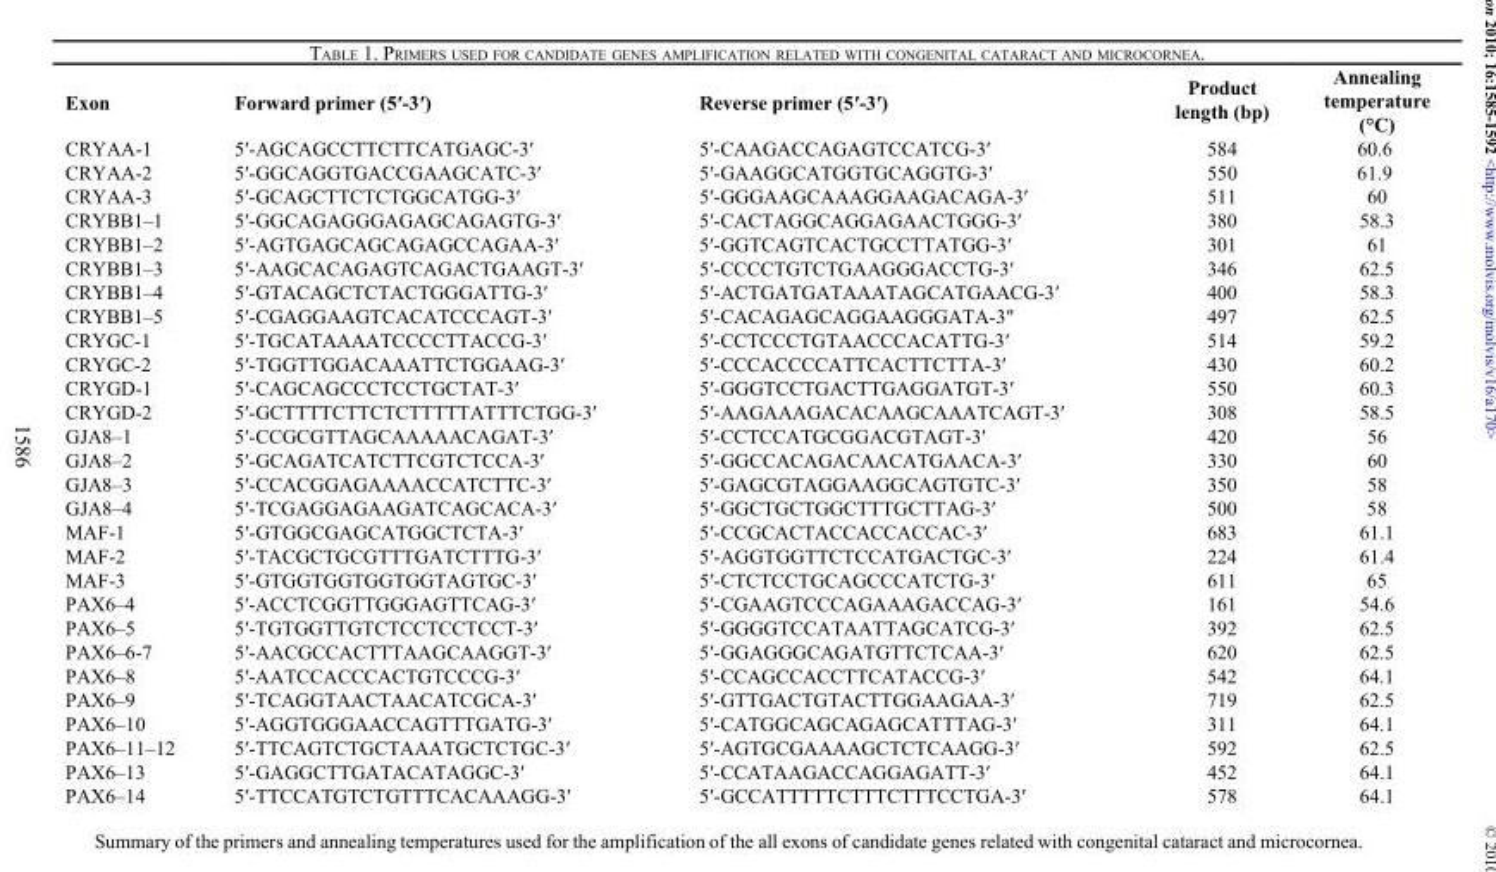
<table><thead><tr><td>Exon</td><td>Forward primer (5′-3′)</td><td>Reverse primer (5′-3′)</td><td>Product length (bp)</td><td>Annealing temperature (°C)</td></tr></thead><tbody><tr><td>CRYAA-1</td><td>5′-AGCAGCCTTCTTCATGAGC-3′</td><td>5′-CAAGACCAGAGTCCATCG-3′</td><td>584</td><td>60.6</td></tr><tr><td>CRYAA-2</td><td>5′-GGCAGGTGACCGAAGCATC-3′</td><td>5′-GAAGGCATGGTGCAGGTG-3′</td><td>550</td><td>61.9</td></tr><tr><td>CRYAA-3</td><td>5′-GCAGCTTCTCTGGCATGG-3′</td><td>5′-GGGAAGCAAAGGAAGACAGA-3′</td><td>511</td><td>60</td></tr><tr><td>CRYBB1–1</td><td>5′-GGCAGAGGGAGAGCAGAGTG-3′</td><td>5′-CACTAGGCAGGAGAACTGGG-3′</td><td>380</td><td>58.3</td></tr><tr><td>CRYBB1–2</td><td>5′-AGTGAGCAGCAGAGCCAGAA-3′</td><td>5′-GGTCAGTCACTGCCTTATGG-3′</td><td>301</td><td>61</td></tr><tr><td>CRYBB1–3</td><td>5′-AAGCACAGAGTCAGACTGAAGT-3′</td><td>5′-CCCCTGTCTGAAGGGACCTG-3′</td><td>346</td><td>62.5</td></tr><tr><td>CRYBB1–4</td><td>5′-GTACAGCTCTACTGGGATTG-3′</td><td>5′-ACTGATGATAAATAGCATGAACG-3′</td><td>400</td><td>58.3</td></tr><tr><td>CRYBB1–5</td><td>5′-CGAGGAAGTCACATCCCAGT-3′</td><td>5′-CACAGAGCAGGAAGGGATA-3′&#x27;</td><td>497</td><td>62.5</td></tr><tr><td>CRYGC-1</td><td>5′-TGCATAAAATCCCCTTACCG-3′</td><td>5′-CCTCCCTGTAACCCACATTG-3′</td><td>514</td><td>59.2</td></tr><tr><td>CRYGC-2</td><td>5′-TGGTTGGACAAATTCTGGAAG-3′</td><td>5′-CCCACCCCATTCACTTCTTA-3′</td><td>430</td><td>60.2</td></tr><tr><td>CRYGD-1</td><td>5′-CAGCAGCCCTCCTGCTAT-3′</td><td>5′-GGGTCCTGACTTGAGGATGT-3′</td><td>550</td><td>60.3</td></tr><tr><td>CRYGD-2</td><td>5′-GCTTTTCTTCTCTTTTTATTTCTGG-3′</td><td>5′-AAGAAAGACACAAGCAAATCAGT-3′</td><td>308</td><td>58.5</td></tr><tr><td>GJA8–1</td><td>5′-CCGCGTTAGCAAAAACAGAT-3′</td><td>5′-CCTCCATGCGGACGTAGT-3′</td><td>420</td><td>56</td></tr><tr><td>GJA8–2</td><td>5′-GCAGATCATCTTCGTCTCCA-3′</td><td>5′-GGCCACAGACAACATGAACA-3′</td><td>330</td><td>60</td></tr><tr><td>GJA8–3</td><td>5′-CCACGGAGAAAACCATCTTC-3′</td><td>5′-GAGCGTAGGAAGGCAGTGTC-3′</td><td>350</td><td>58</td></tr><tr><td>GJA8–4</td><td>5′-TCGAGGAGAAGATCAGCACA-3′</td><td>5′-GGCTGCTGGCTTTGCTTAG-3′</td><td>500</td><td>58</td></tr><tr><td>MAF-1</td><td>5′-GTGGCGAGCATGGCTCTA-3′</td><td>5′-CCGCACTACCACCACCAC-3′</td><td>683</td><td>61.1</td></tr><tr><td>MAF-2</td><td>5′-TACGCTGCGTTTGATCTTTG-3′</td><td>5′-AGGTGGTTCTCCATGACTGC-3′</td><td>224</td><td>61.4</td></tr><tr><td>MAF-3</td><td>5′-GTGGTGGTGGTGGTAGTGC-3′</td><td>5′-CTCTCCTGCAGCCCATCTG-3′</td><td>611</td><td>65</td></tr><tr><td>PAX6–4</td><td>5′-ACCTCGGTTGGGAGTTCAG-3′</td><td>5′-CGAAGTCCCAGAAAGACCAG-3′</td><td>161</td><td>54.6</td></tr><tr><td>PAX6–5</td><td>5′-TGTGGTTGTCTCCTCCTCCT-3′</td><td>5′-GGGGTCCATAATTAGCATCG-3′</td><td>392</td><td>62.5</td></tr><tr><td>PAX6–6-7</td><td>5′-AACGCCACTTTAAGCAAGGT-3′</td><td>5′-GGAGGGCAGATGTTCTCAA-3′</td><td>620</td><td>62.5</td></tr><tr><td>PAX6–8</td><td>5′-AATCCACCCACTGTCCCG-3′</td><td>5′-CCAGCCACCTTCATACCG-3′</td><td>542</td><td>64.1</td></tr><tr><td>PAX6–9</td><td>5′-TCAGGTAACTAACATCGCA-3′</td><td>5′-GTTGACTGTACTTGGAAGAA-3′</td><td>719</td><td>62.5</td></tr><tr><td>PAX6–10</td><td>5′-AGGTGGGAACCAGTTTGATG-3′</td><td>5′-CATGGCAGCAGAGCATTTAG-3′</td><td>311</td><td>64.1</td></tr><tr><td>PAX6–11–12</td><td>5′-TTCAGTCTGCTAAATGCTCTGC-3′</td><td>5′-AGTGCGAAAAGCTCTCAAGG-3′</td><td>592</td><td>62.5</td></tr><tr><td>PAX6–13</td><td>5′-GAGGCTTGATACATAGGC-3′</td><td>5′-CCATAAGACCAGGAGATT-3′</td><td>452</td><td>64.1</td></tr><tr><td>PAX6–14</td><td>5′-TTCCATGTCTGTTTCACAAAGG-3′</td><td>5′-GCCATTTTTCTTTCTTTCCTGA-3′</td><td>578</td><td>64.1</td></tr></tbody></table>